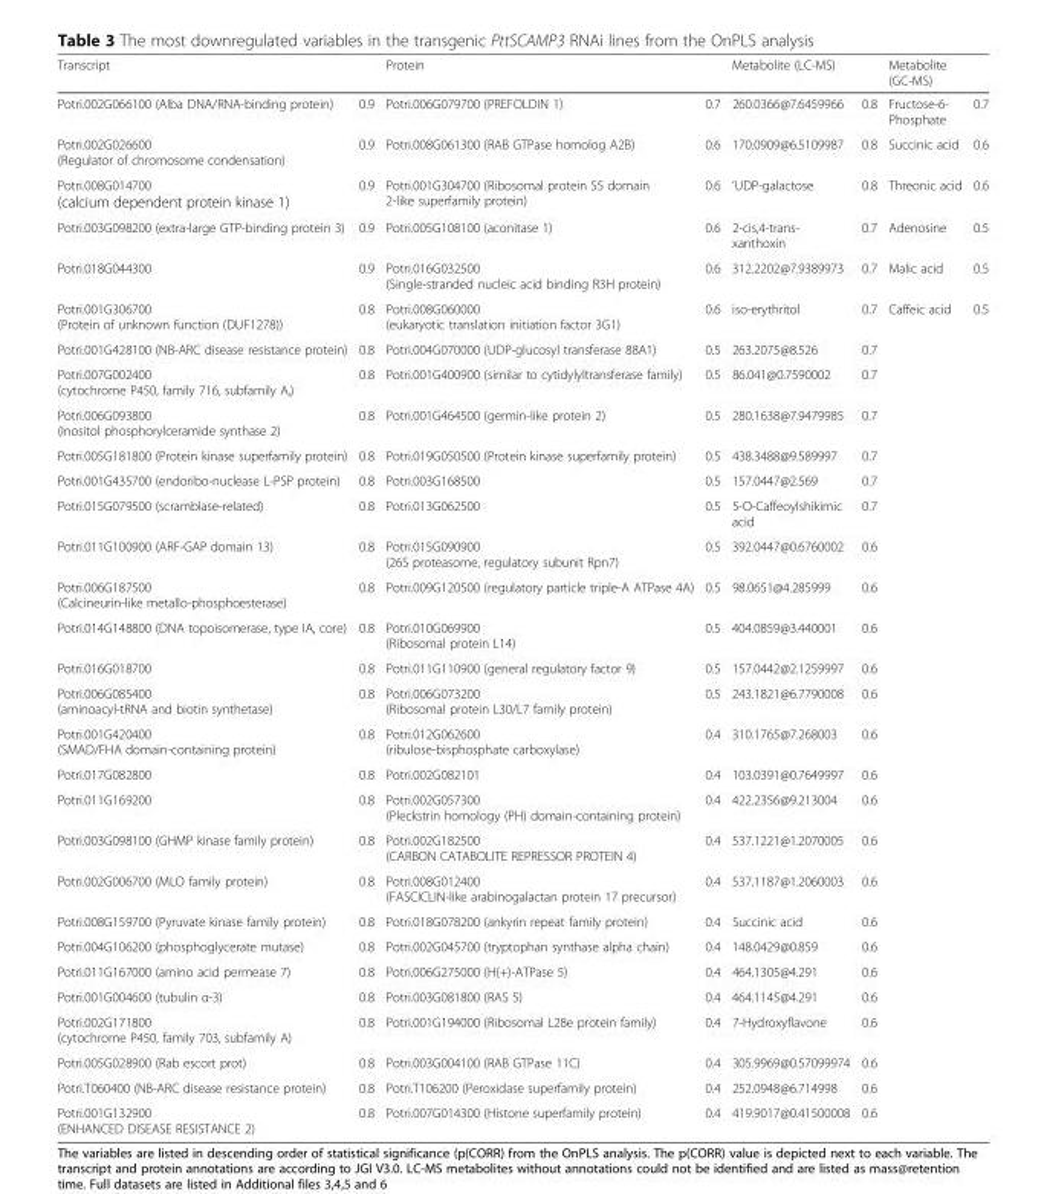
<table><thead><tr><td colspan="2">Transcript</td><td colspan="2">Protein</td><td colspan="2">Metabolite (LC-MS)</td><td colspan="2">Metabolite (GC-MS)</td></tr><tr><td>Potri.002G066100 (Alba DNA/RNA-binding protein)</td><td>0.9</td><td>Potri.006G079700 (PREFOLDIN 1)</td><td>0.7</td><td>260.0366@7.6459966</td><td>0.8</td><td>Fructose-6- Phosphate</td><td>0.7</td></tr></thead><tbody><tr><td>Potri.002G026600 (Regulator of chromosome condensation)</td><td>0.9</td><td>Potri.008G061300 (RAB GTPase homolog A2B)</td><td>0.6</td><td>170.0909@6.5109987</td><td>0.8</td><td>Succinic acid</td><td>0.6</td></tr><tr><td>Potri.008G014700 (calcium dependent protein kinase 1)</td><td>0.9</td><td>Potri.001G304700 (Ribosomal protein S5 domain 2-like superfamily protein)</td><td>0.6</td><td>‘UDP-galactose</td><td>0.8</td><td>Threonic acid</td><td>0.6</td></tr><tr><td>Potri.003G098200 (extra-large GTP-binding protein 3)</td><td>0.9</td><td>Potri.005G108100 (aconitase 1)</td><td>0.6</td><td>2-cis,4-trans- xanthoxin</td><td>0.7</td><td>Adenosine</td><td>0.5</td></tr><tr><td>Potri.018G044300</td><td>0.9</td><td>Potri.016G032500 (Single-stranded nucleic acid binding R3H protein)</td><td>0.6</td><td>312.2202@7.9389973</td><td>0.7</td><td>Malic acid</td><td>0.5</td></tr><tr><td>Potri.001G306700 (Protein of unknown function (DUF1278))</td><td>0.8</td><td>Potri.008G060000 (eukaryotic translation initiation factor 3G1)</td><td>0.6</td><td>iso-erythritol</td><td>0.7</td><td>Caffeic acid</td><td>0.5</td></tr><tr><td>Potri.001G428100 (NB-ARC disease resistance protein)</td><td>0.8</td><td>Potri.004G070000 (UDP-glucosyl transferase 88A1)</td><td>0.5</td><td>263.2075@8.526</td><td>0.7</td><td></td><td></td></tr><tr><td>Potri.007G002400 (cytochrome P450, family 716, subfamily A,)</td><td>0.8</td><td>Potri.001G400900 (similar to cytidylyltransferase family)</td><td>0.5</td><td>86.041@0.7590002</td><td>0.7</td><td></td><td></td></tr><tr><td>Potri.006G093800 (Inositol phosphorylceramide synthase 2)</td><td>0.8</td><td>Potri.001G464500 (germin-like protein 2)</td><td>0.5</td><td>280.1638@7.9479985</td><td>0.7</td><td></td><td></td></tr><tr><td>Potri.005G181800 (Protein kinase superfamily protein)</td><td>0.8</td><td>Potri.019G050500 (Protein kinase superfamily protein)</td><td>0.5</td><td>438.3488@9.589997</td><td>0.7</td><td></td><td></td></tr><tr><td>Potri.001G435700 (endoribo-nuclease L-PSP protein)</td><td>0.8</td><td>Potri.003G168500</td><td>0.5</td><td>157.0447@2.569</td><td>0.7</td><td></td><td></td></tr><tr><td>Potri.015G079500 (scramblase-related)</td><td>0.8</td><td>Potri.013G062500</td><td>0.5</td><td>5-O-Caffeoylshikimic acid</td><td>0.7</td><td></td><td></td></tr><tr><td>Potri.011G100900 (ARF-GAP domain 13)</td><td>0.8</td><td>Potri.015G090900 (26S proteasome, regulatory subunit Rpn7)</td><td>0.5</td><td>392.0447@0.6760002</td><td>0.6</td><td></td><td></td></tr><tr><td>Potri.006G187500 (Calcineurin-like metallo-phosphoesterase)</td><td>0.8</td><td>Potri.009G120500 (regulatory particle triple-A ATPase 4A)</td><td>0.5</td><td>98.0651@4.285999</td><td>0.6</td><td></td><td></td></tr><tr><td>Potri.014G148800 (DNA topoisomerase, type IA, core)</td><td>0.8</td><td>Potri.010G069900 (Ribosomal protein L14)</td><td>0.5</td><td>404.0859@3.440001</td><td>0.6</td><td></td><td></td></tr><tr><td>Potri.016G018700</td><td>0.8</td><td>Potri.011G110900 (general regulatory factor 9)</td><td>0.5</td><td>157.0442@2.1259997</td><td>0.6</td><td></td><td></td></tr><tr><td>Potri.006G085400 (aminoacyl-tRNA and biotin synthetase)</td><td>0.8</td><td>Potri.006G073200 (Ribosomal protein L30/L7 family protein)</td><td>0.5</td><td>243.1821@6.7790008</td><td>0.6</td><td></td><td></td></tr><tr><td>Potri.001G420400 (SMAD/FHA domain-containing protein)</td><td>0.8</td><td>Potri.012G062600 (ribulose-bisphosphate carboxylase)</td><td>0.4</td><td>310.1765@7.268003</td><td>0.6</td><td></td><td></td></tr><tr><td>Potri.017G082800</td><td>0.8</td><td>Potri.002G082101</td><td>0.4</td><td>103.0391@0.7649997</td><td>0.6</td><td></td><td></td></tr><tr><td>Potri.011G169200</td><td>0.8</td><td>Potri.002G057300 (Pleckstrin homology (PH) domain-containing protein)</td><td>0.4</td><td>422.2356@9.213004</td><td>0.6</td><td></td><td></td></tr><tr><td>Potri.003G098100 (GHMP kinase family protein)</td><td>0.8</td><td>Potri.002G182500 (CARBON CATABOLITE REPRESSOR PROTEIN 4)</td><td>0.4</td><td>537.1221@1.2070005</td><td>0.6</td><td></td><td></td></tr><tr><td>Potri.002G006700 (MLO family protein)</td><td>0.8</td><td>Potri.008G012400 (FASCICLIN-like arabinogalactan protein 17 precursor)</td><td>0.4</td><td>537.1187@1.2060003</td><td>0.6</td><td></td><td></td></tr><tr><td>Potri.008G159700 (Pyruvate kinase family protein)</td><td>0.8</td><td>Potri.018G078200 (ankyrin repeat family protein)</td><td>0.4</td><td>Succinic acid</td><td>0.6</td><td></td><td></td></tr><tr><td>Potri.004G106200 (phosphoglycerate mutase)</td><td>0.8</td><td>Potri.002G045700 (tryptophan synthase alpha chain)</td><td>0.4</td><td>148.0429@0.859</td><td>0.6</td><td></td><td></td></tr><tr><td>Potri.011G167000 (amino acid permease 7)</td><td>0.8</td><td>Potri.006G275000 (H(+)-ATPase 5)</td><td>0.4</td><td>464.1305@4.291</td><td>0.6</td><td></td><td></td></tr><tr><td>Potri.001G004600 (tubulin α-3)</td><td>0.8</td><td>Potri.003G081800 (RAS 5)</td><td>0.4</td><td>464.1145@4.291</td><td>0.6</td><td></td><td></td></tr><tr><td>Potri.002G171800 (cytochrome P450, family 703, subfamily A)</td><td>0.8</td><td>Potri.001G194000 (Ribosomal L28e protein family)</td><td>0.4</td><td>7-Hydroxyflavone</td><td>0.6</td><td></td><td></td></tr><tr><td>Potri.005G028900 (Rab escort prot)</td><td>0.8</td><td>Potri.003G004100 (RAB GTPase 11C)</td><td>0.4</td><td>305.9969@0.57099974</td><td>0.6</td><td></td><td></td></tr><tr><td>Potri.T060400 (NB-ARC disease resistance protein)</td><td>0.8</td><td>Potri.T106200 (Peroxidase superfamily protein)</td><td>0.4</td><td>252.0948@6.714998</td><td>0.6</td><td></td><td></td></tr><tr><td>Potri.001G132900 (ENHANCED DISEASE RESISTANCE 2)</td><td>0.8</td><td>Potri.007G014300 (Histone superfamily protein)</td><td>0.4</td><td>419.9017@0.41500008</td><td>0.6</td><td></td><td></td></tr></tbody></table>